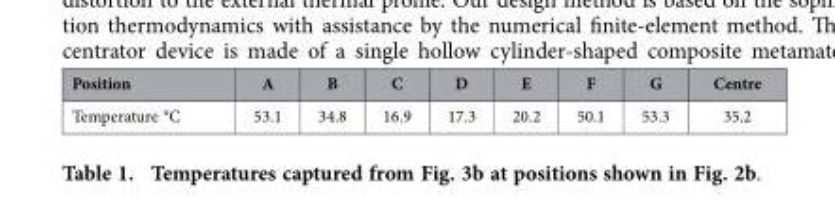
<table><thead><tr><td>Position</td><td>A</td><td>B</td><td>C</td><td>D</td><td>E</td><td>F</td><td>G</td><td>Centre</td></tr></thead><tbody><tr><td>Temperature °C</td><td>53.1</td><td>34.8</td><td>16.9</td><td>17.3</td><td>20.2</td><td>50.1</td><td>53.3</td><td>35.2</td></tr></tbody></table>